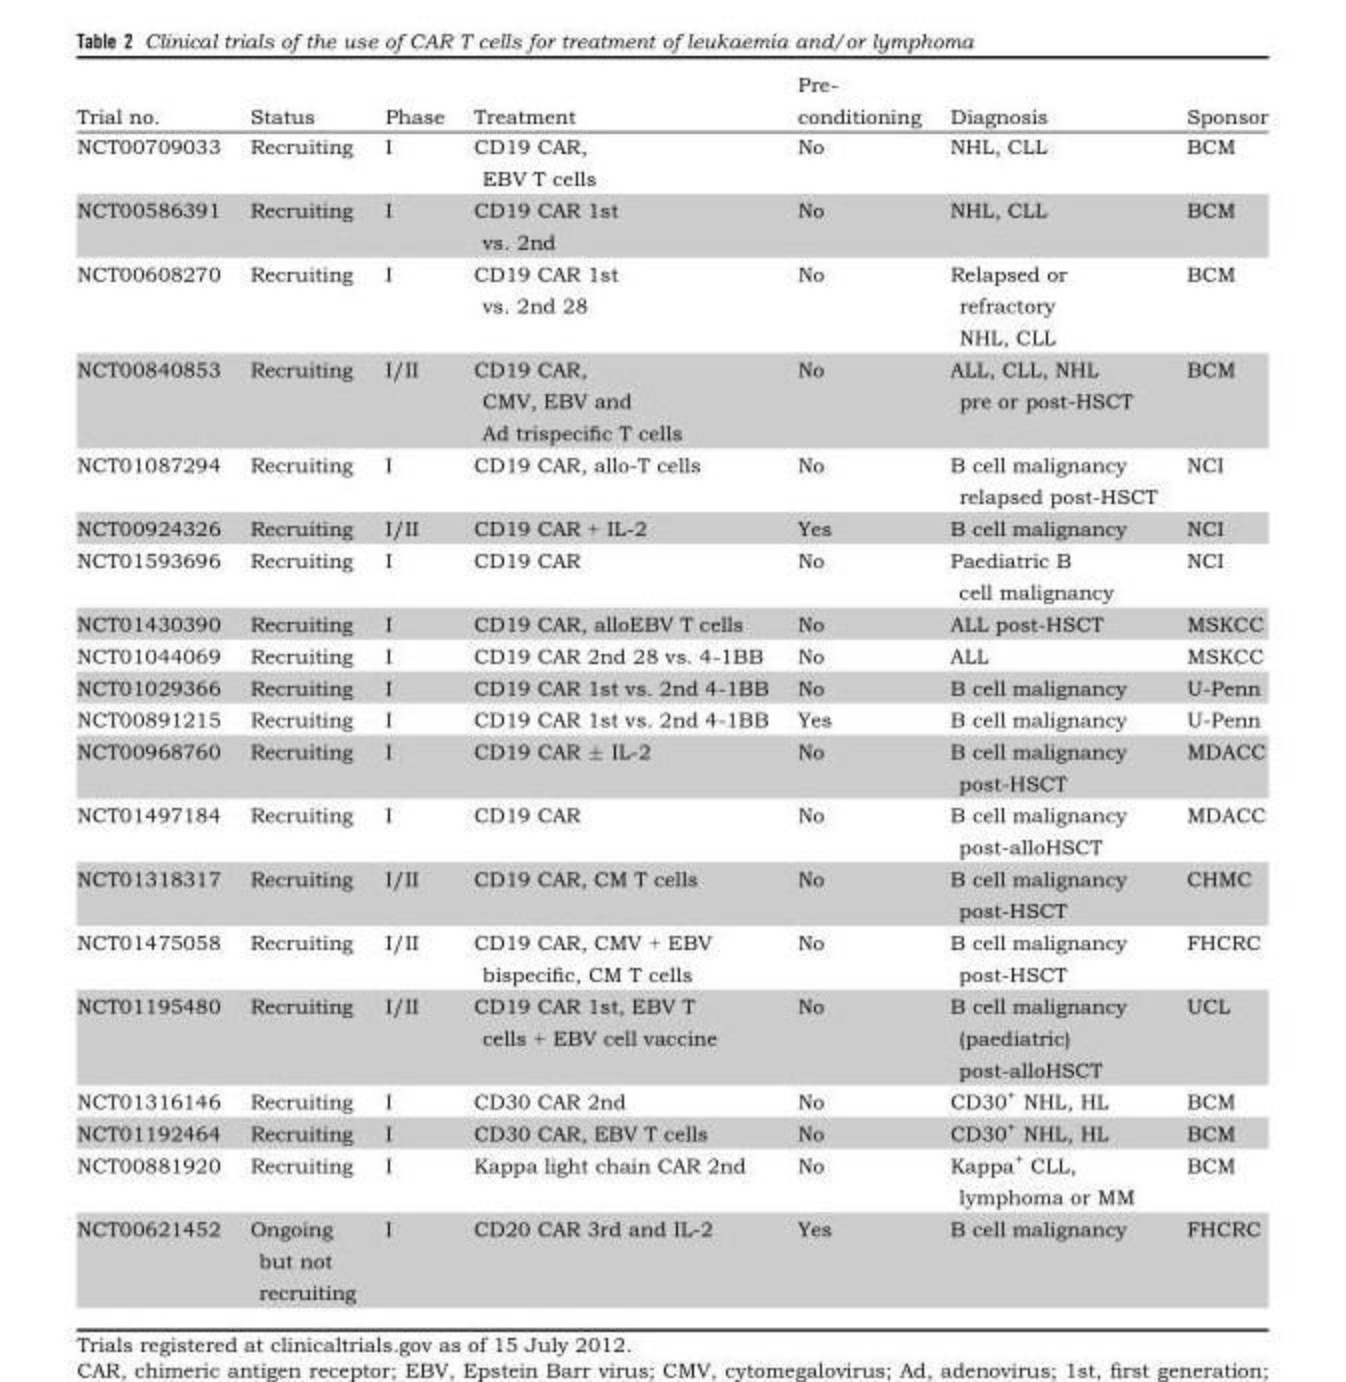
<table><thead><tr><td>Trial no.</td><td>Status</td><td>Phase</td><td>Treatment</td><td>Pre- conditioning</td><td>Diagnosis</td><td>Sponsor</td></tr></thead><tbody><tr><td>NCT00709033</td><td>Recruiting</td><td>I</td><td>CD19 CAR, EBV T cells</td><td>No</td><td>NHL, CLL</td><td>BCM</td></tr><tr><td>NCT00586391</td><td>Recruiting</td><td>I</td><td>CD19 CAR 1st vs. 2nd</td><td>No</td><td>NHL, CLL</td><td>BCM</td></tr><tr><td>NCT00608270</td><td>Recruiting</td><td>I</td><td>CD19 CAR 1st vs. 2nd 28</td><td>No</td><td>Relapsed or refractory NHL, CLL</td><td>BCM</td></tr><tr><td>NCT00840853</td><td>Recruiting</td><td>I/II</td><td>CD19 CAR, CMV, EBV and Ad trispecific T cells</td><td>No</td><td>ALL, CLL, NHL pre or post-HSCT</td><td>BCM</td></tr><tr><td>NCT01087294</td><td>Recruiting</td><td>I</td><td>CD19 CAR, allo-T cells</td><td>No</td><td>B cell malignancy relapsed post-HSCT</td><td>NCI</td></tr><tr><td>NCT00924326</td><td>Recruiting</td><td>I/II</td><td>CD19 CAR + IL-2</td><td>Yes</td><td>B cell malignancy</td><td>NCI</td></tr><tr><td>NCT01593696</td><td>Recruiting</td><td>I</td><td>CD19 CAR</td><td>No</td><td>Paediatric B cell malignancy</td><td>NCI</td></tr><tr><td>NCT01430390</td><td>Recruiting</td><td>I</td><td>CD19 CAR, alloEBV T cells</td><td>No</td><td>ALL post-HSCT</td><td>MSKCC</td></tr><tr><td>NCT01044069</td><td>Recruiting</td><td>I</td><td>CD19 CAR 2nd 28 vs. 4-1BB</td><td>No</td><td>ALL</td><td>MSKCC</td></tr><tr><td>NCT01029366</td><td>Recruiting</td><td>I</td><td>CD19 CAR 1st vs. 2nd 4-1BB</td><td>No</td><td>B cell malignancy</td><td>U-Penn</td></tr><tr><td>NCT00891215</td><td>Recruiting</td><td>I</td><td>CD19 CAR 1st vs. 2nd 4-1BB</td><td>Yes</td><td>B cell malignancy</td><td>U-Penn</td></tr><tr><td>NCT00968760</td><td>Recruiting</td><td>I</td><td>CD19 CAR ± IL-2</td><td>No</td><td>B cell malignancy post-HSCT</td><td>MDACC</td></tr><tr><td>NCT01497184</td><td>Recruiting</td><td>I</td><td>CD19 CAR</td><td>No</td><td>B cell malignancy post-alloHSCT</td><td>MDACC</td></tr><tr><td>NCT01318317</td><td>Recruiting</td><td>I/II</td><td>CD19 CAR, CM T cells</td><td>No</td><td>B cell malignancy post-HSCT</td><td>CHMC</td></tr><tr><td>NCT01475058</td><td>Recruiting</td><td>I/II</td><td>CD19 CAR, CMV + EBV bispecific, CM T cells</td><td>No</td><td>B cell malignancy post-HSCT</td><td>FHCRC</td></tr><tr><td>NCT01195480</td><td>Recruiting</td><td>I/II</td><td>CD19 CAR 1st, EBV T cells + EBV cell vaccine</td><td>No</td><td>B cell malignancy (paediatric) post-alloHSCT</td><td>UCL</td></tr><tr><td>NCT01316146</td><td>Recruiting</td><td>I</td><td>CD30 CAR 2nd</td><td>No</td><td>CD30<sup>+</sup> NHL, HL</td><td>BCM</td></tr><tr><td>NCT01192464</td><td>Recruiting</td><td>I</td><td>CD30 CAR, EBV T cells</td><td>No</td><td>CD30<sup>+</sup> NHL, HL</td><td>BCM</td></tr><tr><td>NCT00881920</td><td>Recruiting</td><td>I</td><td>Kappa light chain CAR 2nd</td><td>No</td><td>Kappa<sup>+</sup> CLL, lymphoma or MM</td><td>BCM</td></tr><tr><td>NCT00621452</td><td>Ongoing but not recruiting</td><td>I</td><td>CD20 CAR 3rd and IL-2</td><td>Yes</td><td>B cell malignancy</td><td>FHCRC</td></tr></tbody></table>